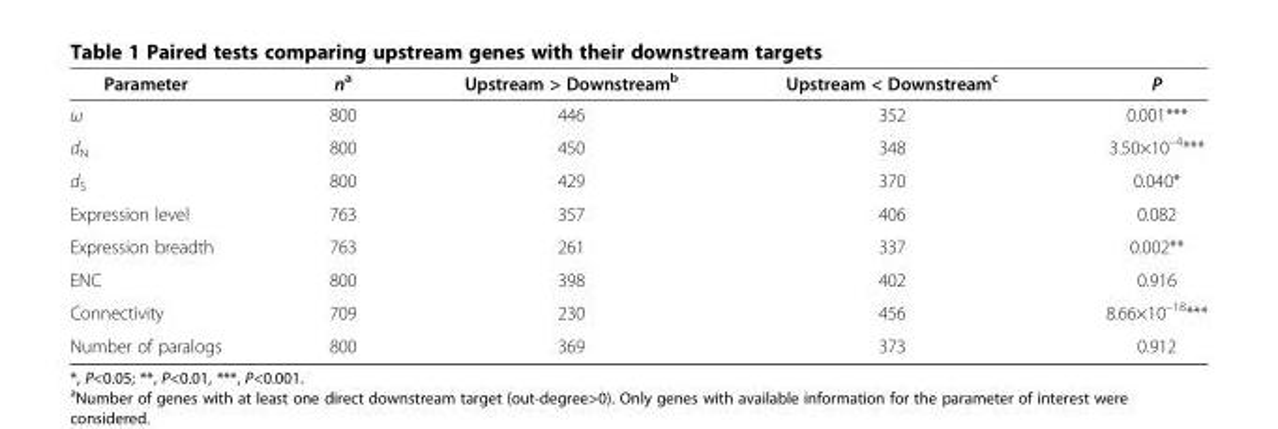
<table><thead><tr><td>Parameter</td><td>n<sup>a</sup></td><td>Upstream &gt; Downstream<sup>b</sup></td><td>Upstream &lt; Downstream<sup>c</sup></td><td>P</td></tr></thead><tbody><tr><td>ω</td><td>800</td><td>446</td><td>352</td><td>0.001***</td></tr><tr><td>d<sub>N</sub></td><td>800</td><td>450</td><td>348</td><td>3.50×10<sup>–4</sup>***</td></tr><tr><td>d<sub>S</sub></td><td>800</td><td>429</td><td>370</td><td>0.040*</td></tr><tr><td>Expression level</td><td>763</td><td>357</td><td>406</td><td>0.082</td></tr><tr><td>Expression breadth</td><td>763</td><td>261</td><td>337</td><td>0.002**</td></tr><tr><td>ENC</td><td>800</td><td>398</td><td>402</td><td>0.916</td></tr><tr><td>Connectivity</td><td>709</td><td>230</td><td>456</td><td>8.66×10<sup>–18</sup>***</td></tr><tr><td>Number of paralogs</td><td>800</td><td>369</td><td>373</td><td>0.912</td></tr></tbody></table>